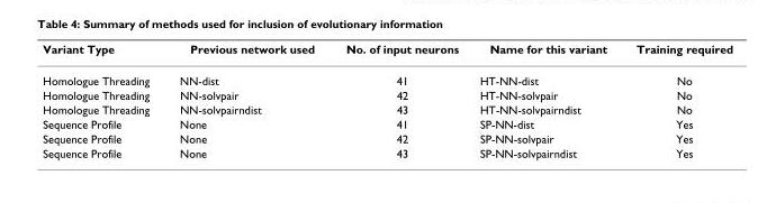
<table><thead><tr><td>Variant Type</td><td>Previous network used</td><td>No. of input neurons</td><td>Name for this variant</td><td>Training required</td></tr></thead><tbody><tr><td>Homologue Threading</td><td>NN-dist</td><td>41</td><td>HT-NN-dist</td><td>No</td></tr><tr><td>Homologue Threading</td><td>NN-solvpair</td><td>42</td><td>HT-NN-solvpair</td><td>No</td></tr><tr><td>Homologue Threading</td><td>NN-solvpairndist</td><td>43</td><td>HT-NN-solvpairndist</td><td>No</td></tr><tr><td>Sequence Profile</td><td>None</td><td>41</td><td>SP-NN-dist</td><td>Yes</td></tr><tr><td>Sequence Profile</td><td>None</td><td>42</td><td>SP-NN-solvpair</td><td>Yes</td></tr><tr><td>Sequence Profile</td><td>None</td><td>43</td><td>SP-NN-solvpairndist</td><td>Yes</td></tr></tbody></table>